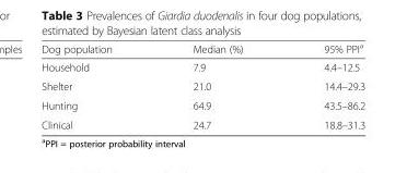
<table><thead><tr><td>Dog population</td><td>Median (%)</td><td>95% PPI<sup>a</sup></td></tr></thead><tbody><tr><td>Household</td><td>7.9</td><td>4.4–12.5</td></tr><tr><td>Shelter</td><td>21.0</td><td>14.4–29.3</td></tr><tr><td>Hunting</td><td>64.9</td><td>43.5–86.2</td></tr><tr><td>Clinical</td><td>24.7</td><td>18.8–31.3</td></tr></tbody></table>